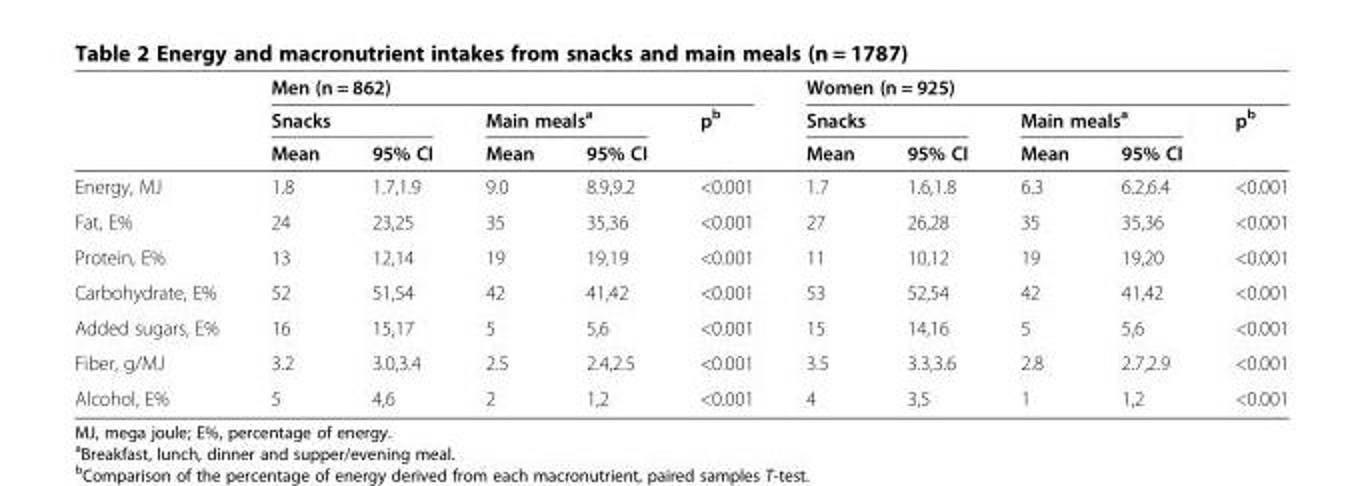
<table><thead><tr><td rowspan="3"></td><td colspan="5">Men (n = 862)</td><td colspan="5">Women (n = 925)</td></tr><tr><td colspan="2">Snacks</td><td colspan="2">Main meals<sup>a</sup></td><td rowspan="2">p<sup>b</sup></td><td colspan="2">Snacks</td><td colspan="2">Main meals<sup>a</sup></td><td rowspan="2">p<sup>b</sup></td></tr><tr><td>Mean</td><td>95% CI</td><td>Mean</td><td>95% CI</td><td>Mean</td><td>95% CI</td><td>Mean</td><td>95% CI</td></tr></thead><tbody><tr><td>Energy, MJ</td><td>1.8</td><td>1.7,1.9</td><td>9.0</td><td>8.9,9.2</td><td>&lt;0.001</td><td>1.7</td><td>1.6,1.8</td><td>6.3</td><td>6.2,6.4</td><td>&lt;0.001</td></tr><tr><td>Fat, E%</td><td>24</td><td>23,25</td><td>35</td><td>35,36</td><td>&lt;0.001</td><td>27</td><td>26,28</td><td>35</td><td>35,36</td><td>&lt;0.001</td></tr><tr><td>Protein, E%</td><td>13</td><td>12,14</td><td>19</td><td>19,19</td><td>&lt;0.001</td><td>11</td><td>10,12</td><td>19</td><td>19,20</td><td>&lt;0.001</td></tr><tr><td>Carbohydrate, E%</td><td>52</td><td>51,54</td><td>42</td><td>41,42</td><td>&lt;0.001</td><td>53</td><td>52,54</td><td>42</td><td>41,42</td><td>&lt;0.001</td></tr><tr><td>Added sugars, E%</td><td>16</td><td>15,17</td><td>5</td><td>5,6</td><td>&lt;0.001</td><td>15</td><td>14,16</td><td>5</td><td>5,6</td><td>&lt;0.001</td></tr><tr><td>Fiber, g/MJ</td><td>3.2</td><td>3.0,3.4</td><td>2.5</td><td>2.4,2.5</td><td>&lt;0.001</td><td>3.5</td><td>3.3,3.6</td><td>2.8</td><td>2.7,2.9</td><td>&lt;0.001</td></tr><tr><td>Alcohol, E%</td><td>5</td><td>4,6</td><td>2</td><td>1,2</td><td>&lt;0.001</td><td>4</td><td>3,5</td><td>1</td><td>1,2</td><td>&lt;0.001</td></tr></tbody></table>